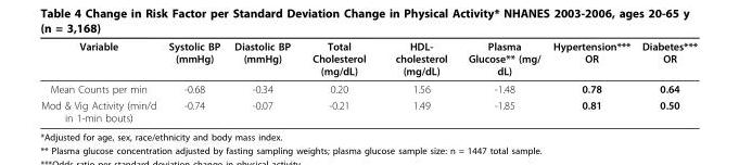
<table><thead><tr><td>Variable</td><td>Systolic BP (mmHg)</td><td>Diastolic BP (mmHg)</td><td>Total Cholesterol (mg/dL)</td><td>HDL- cholesterol (mg/dL)</td><td>Plasma Glucose** (mg/ dL)</td><td>Hypertension*** OR</td><td>Diabetes*** OR</td></tr></thead><tbody><tr><td>Mean Counts per min</td><td>-0.68</td><td>-0.34</td><td>0.20</td><td>1.56</td><td>-1.48</td><td>0.78</td><td>0.64</td></tr><tr><td>Mod &amp; Vig Activity (min/d in 1-min bouts)</td><td>-0.74</td><td>-0.07</td><td>-0.21</td><td>1.49</td><td>-1.85</td><td>0.81</td><td>0.50</td></tr></tbody></table>